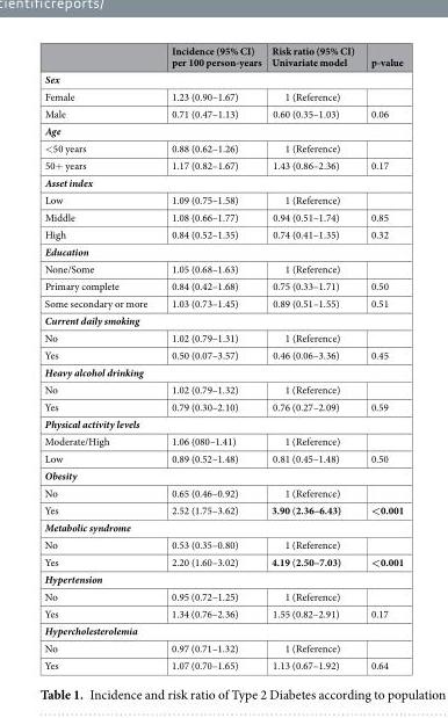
<table><thead><tr><td></td><td>Incidence (95% CI) per 100 person-years</td><td>Risk ratio (95% CI) Univariate model</td><td>p-value</td></tr></thead><tbody><tr><td colspan="4">Sex</td></tr><tr><td>Female</td><td>1.23 (0.90–1.67)</td><td>1 (Reference)</td><td></td></tr><tr><td>Male</td><td>0.71 (0.47–1.13)</td><td>0.60 (0.35–1.03)</td><td>0.06</td></tr><tr><td colspan="4">Age</td></tr><tr><td>&lt;50 years</td><td>0.88 (0.62–1.26)</td><td>1 (Reference)</td><td></td></tr><tr><td>50+ years</td><td>1.17 (0.82–1.67)</td><td>1.43 (0.86–2.36)</td><td>0.17</td></tr><tr><td colspan="4">Asset index</td></tr><tr><td>Low</td><td>1.09 (0.75–1.58)</td><td>1 (Reference)</td><td></td></tr><tr><td>Middle</td><td>1.08 (0.66–1.77)</td><td>0.94 (0.51–1.74)</td><td>0.85</td></tr><tr><td>High</td><td>0.84 (0.52–1.35)</td><td>0.74 (0.41–1.35)</td><td>0.32</td></tr><tr><td colspan="4">Education</td></tr><tr><td>None/Some</td><td>1.05 (0.68–1.63)</td><td>1 (Reference)</td><td></td></tr><tr><td>Primary complete</td><td>0.84 (0.42–1.68)</td><td>0.75 (0.33–1.71)</td><td>0.50</td></tr><tr><td>Some secondary or more</td><td>1.03 (0.73–1.45)</td><td>0.89 (0.51–1.55)</td><td>0.51</td></tr><tr><td colspan="4">Current daily smoking</td></tr><tr><td>No</td><td>1.02 (0.79–1.31)</td><td>1 (Reference)</td><td></td></tr><tr><td>Yes</td><td>0.50 (0.07–3.57)</td><td>0.46 (0.06–3.36)</td><td>0.45</td></tr><tr><td colspan="4">Heavy alcohol drinking</td></tr><tr><td>No</td><td>1.02 (0.79–1.32)</td><td>1 (Reference)</td><td></td></tr><tr><td>Yes</td><td>0.79 (0.30–2.10)</td><td>0.76 (0.27–2.09)</td><td>0.59</td></tr><tr><td colspan="4">Physical activity levels</td></tr><tr><td>Moderate/High</td><td>1.06 (080–1.41)</td><td>1 (Reference)</td><td></td></tr><tr><td>Low</td><td>0.89 (0.52–1.48)</td><td>0.81 (0.45–1.48)</td><td>0.50</td></tr><tr><td colspan="4">Obesity</td></tr><tr><td>No</td><td>0.65 (0.46–0.92)</td><td>1 (Reference)</td><td></td></tr><tr><td>Yes</td><td>2.52 (1.75–3.62)</td><td>3.90 (2.36–6.43)</td><td>&lt;0.001</td></tr><tr><td colspan="4">Metabolic syndrome</td></tr><tr><td>No</td><td>0.53 (0.35–0.80)</td><td>1 (Reference)</td><td></td></tr><tr><td>Yes</td><td>2.20 (1.60–3.02)</td><td>4.19 (2.50–7.03)</td><td>&lt;0.001</td></tr><tr><td colspan="4">Hypertension</td></tr><tr><td>No</td><td>0.95 (0.72–1.25)</td><td>1 (Reference)</td><td></td></tr><tr><td>Yes</td><td>1.34 (0.76–2.36)</td><td>1.55 (0.82–2.91)</td><td>0.17</td></tr><tr><td colspan="4">Hypercholesterolemia</td></tr><tr><td>No</td><td>0.97 (0.71–1.32)</td><td>1 (Reference)</td><td></td></tr><tr><td>Yes</td><td>1.07 (0.70–1.65)</td><td>1.13 (0.67–1.92)</td><td>0.64</td></tr></tbody></table>